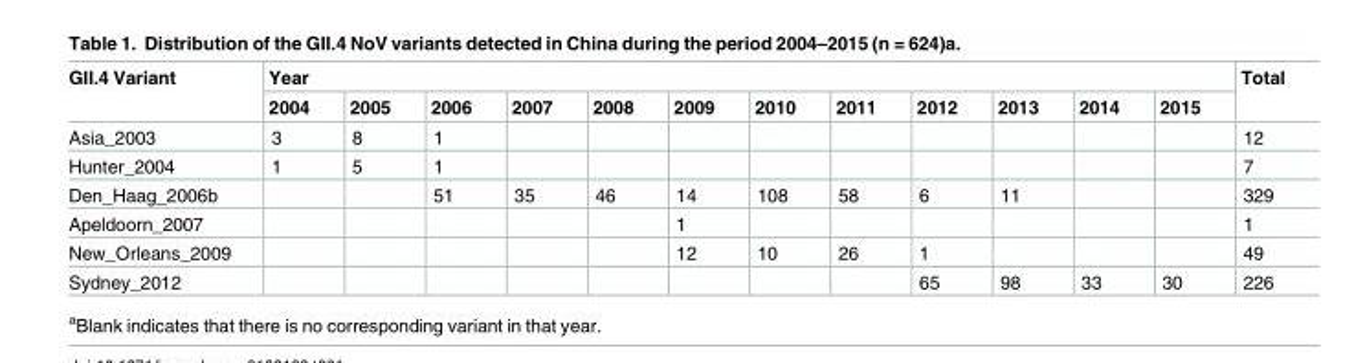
<table><thead><tr><td rowspan="2">GII.4 Variant</td><td colspan="12">Year</td><td rowspan="2">Total</td></tr><tr><td>2004</td><td>2005</td><td>2006</td><td>2007</td><td>2008</td><td>2009</td><td>2010</td><td>2011</td><td>2012</td><td>2013</td><td>2014</td><td>2015</td></tr></thead><tbody><tr><td>Asia_2003</td><td>3</td><td>8</td><td>1</td><td></td><td></td><td></td><td></td><td></td><td></td><td></td><td></td><td></td><td>12</td></tr><tr><td>Hunter_2004</td><td>1</td><td>5</td><td>1</td><td></td><td></td><td></td><td></td><td></td><td></td><td></td><td></td><td></td><td>7</td></tr><tr><td>Den_Haag_2006b</td><td></td><td></td><td>51</td><td>35</td><td>46</td><td>14</td><td>108</td><td>58</td><td>6</td><td>11</td><td></td><td></td><td>329</td></tr><tr><td>Apeldoorn_2007</td><td></td><td></td><td></td><td></td><td></td><td>1</td><td></td><td></td><td></td><td></td><td></td><td></td><td>1</td></tr><tr><td>New_Orleans_2009</td><td></td><td></td><td></td><td></td><td></td><td>12</td><td>10</td><td>26</td><td>1</td><td></td><td></td><td></td><td>49</td></tr><tr><td>Sydney_2012</td><td></td><td></td><td></td><td></td><td></td><td></td><td></td><td></td><td>65</td><td>98</td><td>33</td><td>30</td><td>226</td></tr></tbody></table>